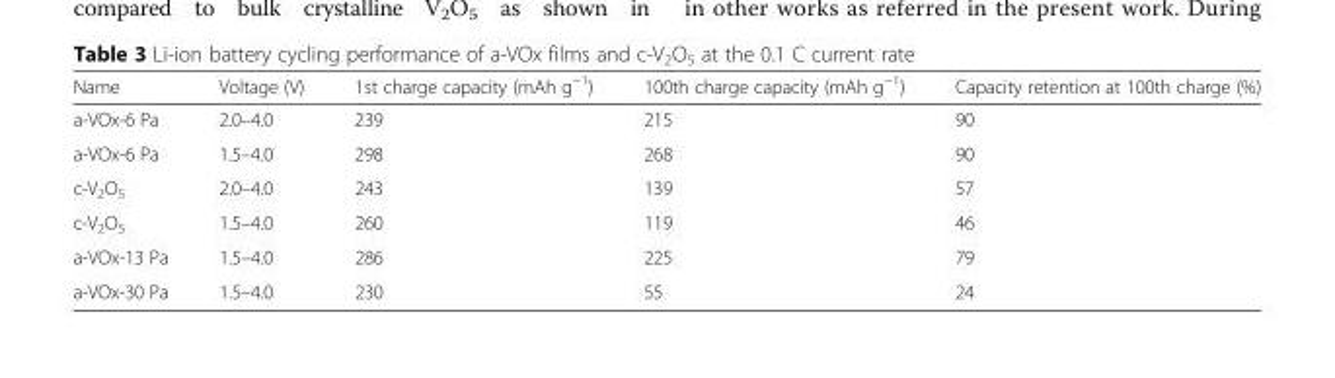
<table><thead><tr><td>Name</td><td>Voltage (V)</td><td>1st charge capacity (mAh g<sup>−1</sup>)</td><td>100th charge capacity (mAh g<sup>−1</sup>)</td><td>Capacity retention at 100th charge (%)</td></tr></thead><tbody><tr><td>a-VOx-6 Pa</td><td>2.0–4.0</td><td>239</td><td>215</td><td>90</td></tr><tr><td>a-VOx-6 Pa</td><td>1.5–4.0</td><td>298</td><td>268</td><td>90</td></tr><tr><td>c-V<sub>2</sub>O<sub>5</sub></td><td>2.0–4.0</td><td>243</td><td>139</td><td>57</td></tr><tr><td>c-V<sub>2</sub>O<sub>5</sub></td><td>1.5–4.0</td><td>260</td><td>119</td><td>46</td></tr><tr><td>a-VOx-13 Pa</td><td>1.5–4.0</td><td>286</td><td>225</td><td>79</td></tr><tr><td>a-VOx-30 Pa</td><td>1.5–4.0</td><td>230</td><td>55</td><td>24</td></tr></tbody></table>